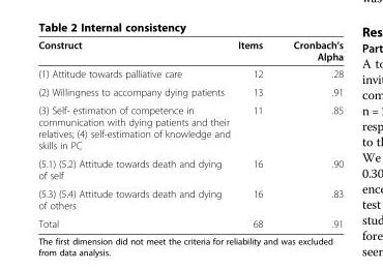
<table><thead><tr><td>Construct</td><td>Items</td><td>Cronbach’s Alpha</td></tr></thead><tbody><tr><td>(1) Attitude towards palliative care</td><td>12</td><td>.28</td></tr><tr><td>(2) Willingness to accompany dying patients</td><td>13</td><td>.91</td></tr><tr><td>(3) Self- estimation of competence in communication with dying patients and their relatives; (4) self-estimation of knowledge and skills in PC</td><td>11</td><td>.85</td></tr><tr><td>(5.1) (5.2) Attitude towards death and dying of self</td><td>16</td><td>.90</td></tr><tr><td>(5.3) (5.4) Attitude towards death and dying of others</td><td>16</td><td>.83</td></tr><tr><td>Total</td><td>68</td><td>.91</td></tr></tbody></table>